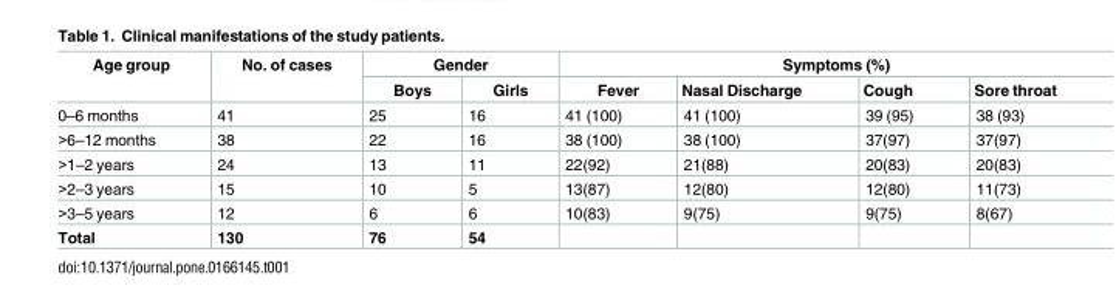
<table><thead><tr><td rowspan="2">Age group</td><td rowspan="2">No. of cases</td><td colspan="2">Gender</td><td colspan="4">Symptoms (%)</td></tr><tr><td>Boys</td><td>Girls</td><td>Fever</td><td>Nasal Discharge</td><td>Cough</td><td>Sore throat</td></tr></thead><tbody><tr><td>0–6 months</td><td>41</td><td>25</td><td>16</td><td>41 (100)</td><td>41 (100)</td><td>39 (95)</td><td>38 (93)</td></tr><tr><td>&gt;6–12 months</td><td>38</td><td>22</td><td>16</td><td>38 (100)</td><td>38 (100)</td><td>37(97)</td><td>37(97)</td></tr><tr><td>&gt;1–2 years</td><td>24</td><td>13</td><td>11</td><td>22(92)</td><td>21(88)</td><td>20(83)</td><td>20(83)</td></tr><tr><td>&gt;2–3 years</td><td>15</td><td>10</td><td>5</td><td>13(87)</td><td>12(80)</td><td>12(80)</td><td>11(73)</td></tr><tr><td>&gt;3–5 years</td><td>12</td><td>6</td><td>6</td><td>10(83)</td><td>9(75)</td><td>9(75)</td><td>8(67)</td></tr><tr><td>Total</td><td>130</td><td>76</td><td>54</td><td></td><td></td><td></td><td></td></tr></tbody></table>